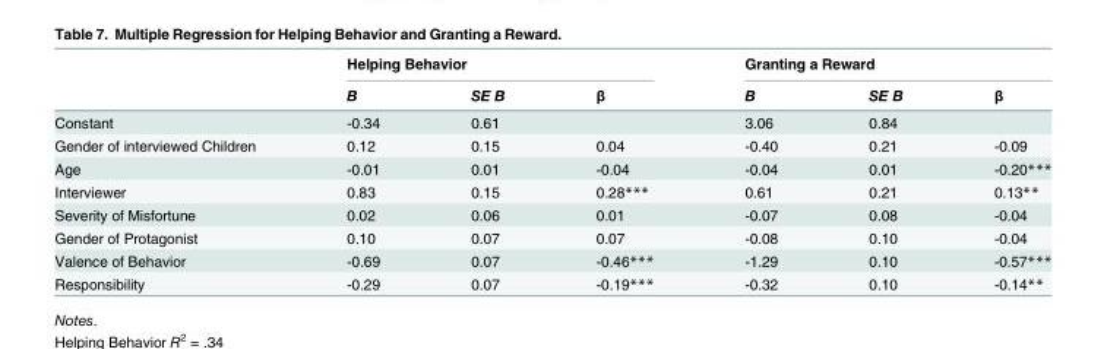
<table><thead><tr><td rowspan="2"></td><td colspan="3">Helping Behavior</td><td colspan="3">Granting a Reward</td></tr><tr><td>B</td><td>SE B</td><td>β</td><td>B</td><td>SE B</td><td>β</td></tr></thead><tbody><tr><td>Constant</td><td>-0.34</td><td>0.61</td><td></td><td>3.06</td><td>0.84</td><td></td></tr><tr><td>Gender of interviewed Children</td><td>0.12</td><td>0.15</td><td>0.04</td><td>-0.40</td><td>0.21</td><td>-0.09</td></tr><tr><td>Age</td><td>-0.01</td><td>0.01</td><td>-0.04</td><td>-0.04</td><td>0.01</td><td>-0.20***</td></tr><tr><td>Interviewer</td><td>0.83</td><td>0.15</td><td>0.28***</td><td>0.61</td><td>0.21</td><td>0.13**</td></tr><tr><td>Severity of Misfortune</td><td>0.02</td><td>0.06</td><td>0.01</td><td>-0.07</td><td>0.08</td><td>-0.04</td></tr><tr><td>Gender of Protagonist</td><td>0.10</td><td>0.07</td><td>0.07</td><td>-0.08</td><td>0.10</td><td>-0.04</td></tr><tr><td>Valence of Behavior</td><td>-0.69</td><td>0.07</td><td>-0.46***</td><td>-1.29</td><td>0.10</td><td>-0.57***</td></tr><tr><td>Responsibility</td><td>-0.29</td><td>0.07</td><td>-0.19***</td><td>-0.32</td><td>0.10</td><td>-0.14**</td></tr></tbody></table>